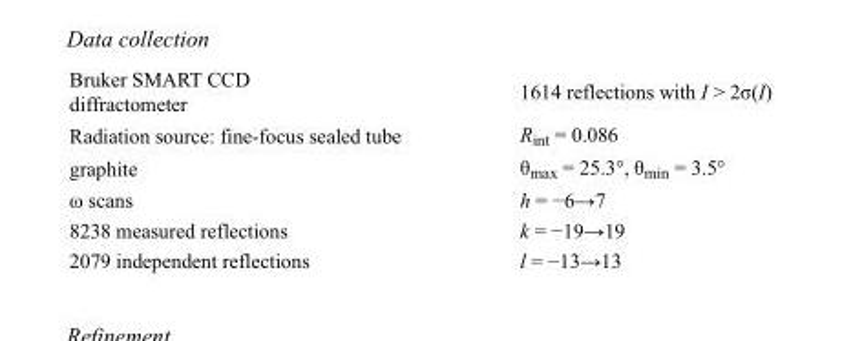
<table><tbody><tr><td>Bruker SMART CCD diffractometer</td><td>1614 reflections with I &gt; 2σ(I)</td></tr><tr><td>Radiation source: fine-focus sealed tube</td><td>R<sub>int</sub> = 0.086</td></tr><tr><td>graphite</td><td>θ<sub>max</sub> = 25.3°, θ<sub>min</sub> = 3.5°</td></tr><tr><td>ω scans</td><td>h = −6→7</td></tr><tr><td>8238 measured reflections</td><td>k = −19→19</td></tr><tr><td>2079 independent reflections</td><td>l = −13→13</td></tr></tbody></table>